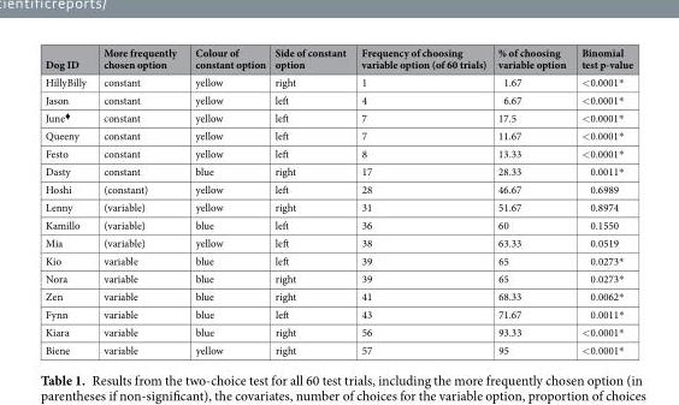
<table><thead><tr><td>Dog ID</td><td>More frequently chosen option</td><td>Colour of constant option</td><td>Side of constant option</td><td>Frequency of choosing variable option (of 60 trials)</td><td>% of choosing variable option</td><td>Binomial test p-value</td></tr></thead><tbody><tr><td>HillyBilly</td><td>constant</td><td>yellow</td><td>right</td><td>1</td><td>1.67</td><td>&lt;0.0001*</td></tr><tr><td>Jason</td><td>constant</td><td>yellow</td><td>left</td><td>4</td><td>6.67</td><td>&lt;0.0001*</td></tr><tr><td>June<sup>♦</sup></td><td>constant</td><td>yellow</td><td>left</td><td>7</td><td>17.5</td><td>&lt;0.0001*</td></tr><tr><td>Queeny</td><td>constant</td><td>yellow</td><td>left</td><td>7</td><td>11.67</td><td>&lt;0.0001*</td></tr><tr><td>Festo</td><td>constant</td><td>yellow</td><td>left</td><td>8</td><td>13.33</td><td>&lt;0.0001*</td></tr><tr><td>Dasty</td><td>constant</td><td>blue</td><td>right</td><td>17</td><td>28.33</td><td>0.0011*</td></tr><tr><td>Hoshi</td><td>(constant)</td><td>yellow</td><td>left</td><td>28</td><td>46.67</td><td>0.6989</td></tr><tr><td>Lenny</td><td>(variable)</td><td>yellow</td><td>right</td><td>31</td><td>51.67</td><td>0.8974</td></tr><tr><td>Kamillo</td><td>(variable)</td><td>blue</td><td>left</td><td>36</td><td>60</td><td>0.1550</td></tr><tr><td>Mia</td><td>(variable)</td><td>yellow</td><td>left</td><td>38</td><td>63.33</td><td>0.0519</td></tr><tr><td>Kio</td><td>variable</td><td>blue</td><td>left</td><td>39</td><td>65</td><td>0.0273*</td></tr><tr><td>Nora</td><td>variable</td><td>blue</td><td>right</td><td>39</td><td>65</td><td>0.0273*</td></tr><tr><td>Zen</td><td>variable</td><td>blue</td><td>right</td><td>41</td><td>68.33</td><td>0.0062*</td></tr><tr><td>Fynn</td><td>variable</td><td>blue</td><td>left</td><td>43</td><td>71.67</td><td>0.0011*</td></tr><tr><td>Kiara</td><td>variable</td><td>blue</td><td>right</td><td>56</td><td>93.33</td><td>&lt;0.0001*</td></tr><tr><td>Biene</td><td>variable</td><td>yellow</td><td>right</td><td>57</td><td>95</td><td>&lt;0.0001*</td></tr></tbody></table>